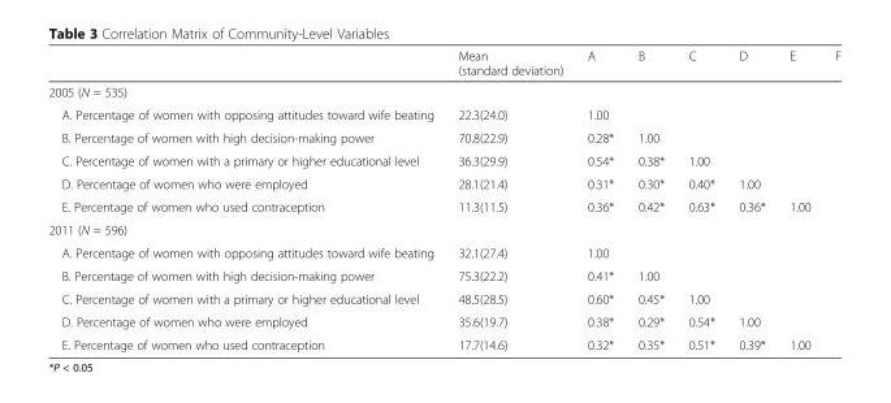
<table><thead><tr><td></td><td>Mean (standard deviation)</td><td>A</td><td>B</td><td>C</td><td>D</td><td>E</td><td>F</td></tr></thead><tbody><tr><td colspan="8">2005 (N = 535)</td></tr><tr><td>A. Percentage of women with opposing attitudes toward wife beating</td><td>22.3(24.0)</td><td>1.00</td><td></td><td></td><td></td><td></td><td></td></tr><tr><td>B. Percentage of women with high decision-making power</td><td>70.8(22.9)</td><td>0.28*</td><td>1.00</td><td></td><td></td><td></td><td></td></tr><tr><td>C. Percentage of women with a primary or higher educational level</td><td>36.3(29.9)</td><td>0.54*</td><td>0.38*</td><td>1.00</td><td></td><td></td><td></td></tr><tr><td>D. Percentage of women who were employed</td><td>28.1(21.4)</td><td>0.31*</td><td>0.30*</td><td>0.40*</td><td>1.00</td><td></td><td></td></tr><tr><td>E. Percentage of women who used contraception</td><td>11.3(11.5)</td><td>0.36*</td><td>0.42*</td><td>0.63*</td><td>0.36*</td><td>1.00</td><td></td></tr><tr><td colspan="8">2011 (N = 596)</td></tr><tr><td>A. Percentage of women with opposing attitudes toward wife beating</td><td>32.1(27.4)</td><td>1.00</td><td></td><td></td><td></td><td></td><td></td></tr><tr><td>B. Percentage of women with high decision-making power</td><td>75.3(22.2)</td><td>0.41*</td><td>1.00</td><td></td><td></td><td></td><td></td></tr><tr><td>C. Percentage of women with a primary or higher educational level</td><td>48.5(28.5)</td><td>0.60*</td><td>0.45*</td><td>1.00</td><td></td><td></td><td></td></tr><tr><td>D. Percentage of women who were employed</td><td>35.6(19.7)</td><td>0.38*</td><td>0.29*</td><td>0.54*</td><td>1.00</td><td></td><td></td></tr><tr><td>E. Percentage of women who used contraception</td><td>17.7(14.6)</td><td>0.32*</td><td>0.35*</td><td>0.51*</td><td>0.39*</td><td>1.00</td><td></td></tr></tbody></table>